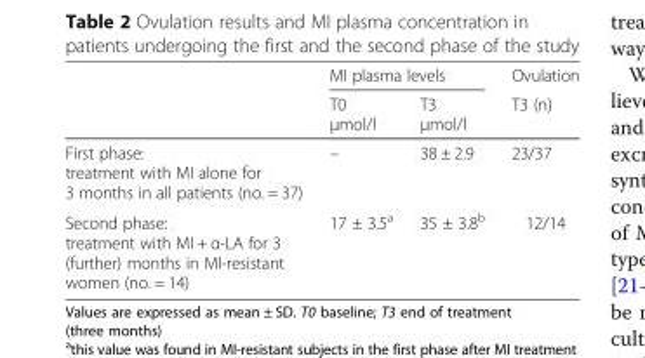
<table><thead><tr><td rowspan="2"></td><td colspan="2">MI plasma levels</td><td rowspan="2">Ovulation T3 (n)</td></tr><tr><td>T0 μmol/l</td><td>T3 μmol/l</td></tr></thead><tbody><tr><td>First phase: treatment with MI alone for 3 months in all patients (no. = 37)</td><td>–</td><td>38 ± 2.9</td><td>23/37</td></tr><tr><td>Second phase: treatment with MI + α-LA for 3 (further) months in MI-resistant women (no. = 14)</td><td>17 ± 3.5<sup>a</sup></td><td>35 ± 3.8<sup>b</sup></td><td>12/14</td></tr></tbody></table>